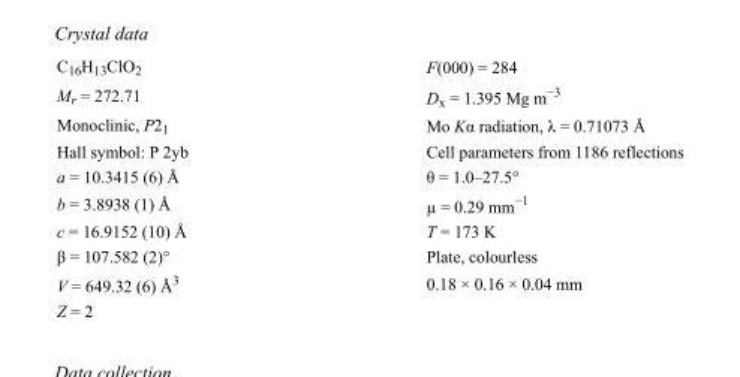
<table><tbody><tr><td>C<sub>16</sub>H<sub>13</sub>ClO<sub>2</sub></td><td>F(000) = 284</td></tr><tr><td>M<sub>r</sub> = 272.71</td><td>D<sub>x</sub> = 1.395 Mg m<sup>−3</sup></td></tr><tr><td>Monoclinic, P2<sub>1</sub></td><td>Mo Kα radiation, λ = 0.71073 Å</td></tr><tr><td>Hall symbol: P 2yb</td><td>Cell parameters from 1186 reflections</td></tr><tr><td>a = 10.3415 (6) Å</td><td>θ = 1.0–27.5°</td></tr><tr><td>b = 3.8938 (1) Å</td><td>µ = 0.29 mm<sup>−1</sup></td></tr><tr><td>c = 16.9152 (10) Å</td><td>T = 173 K</td></tr><tr><td>β = 107.582 (2)°</td><td>Plate, colourless</td></tr><tr><td>V = 649.32 (6) Å<sup>3</sup></td><td>0.18 × 0.16 × 0.04 mm</td></tr><tr><td>Z = 2</td><td></td></tr></tbody></table>